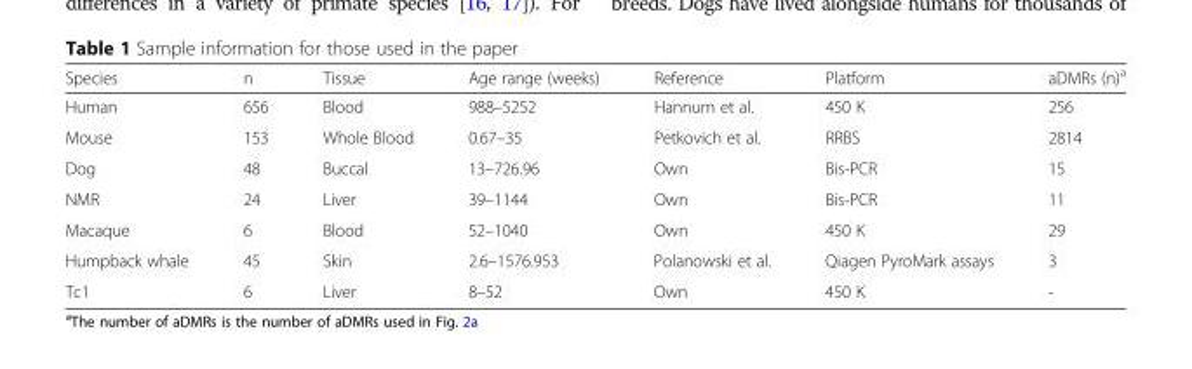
<table><thead><tr><td>Species</td><td>n</td><td>Tissue</td><td>Age range (weeks)</td><td>Reference</td><td>Platform</td><td>aDMRs (n)<sup>a</sup></td></tr></thead><tbody><tr><td>Human</td><td>656</td><td>Blood</td><td>988–5252</td><td>Hannum et al.</td><td>450 K</td><td>256</td></tr><tr><td>Mouse</td><td>153</td><td>Whole Blood</td><td>0.67–35</td><td>Petkovich et al.</td><td>RRBS</td><td>2814</td></tr><tr><td>Dog</td><td>48</td><td>Buccal</td><td>13–726.96</td><td>Own</td><td>Bis-PCR</td><td>15</td></tr><tr><td>NMR</td><td>24</td><td>Liver</td><td>39–1144</td><td>Own</td><td>Bis-PCR</td><td>11</td></tr><tr><td>Macaque</td><td>6</td><td>Blood</td><td>52–1040</td><td>Own</td><td>450 K</td><td>29</td></tr><tr><td>Humpback whale</td><td>45</td><td>Skin</td><td>2.6–1576.953</td><td>Polanowski et al.</td><td>Qiagen PyroMark assays</td><td>3</td></tr><tr><td>Tc1</td><td>6</td><td>Liver</td><td>8–52</td><td>Own</td><td>450 K</td><td>-</td></tr></tbody></table>